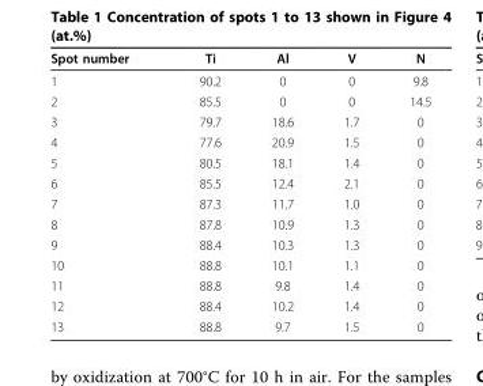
<table><thead><tr><td>Spot number</td><td>Ti</td><td>Al</td><td>V</td><td>N</td></tr></thead><tbody><tr><td>1</td><td>90.2</td><td>0</td><td>0</td><td>9.8</td></tr><tr><td>2</td><td>85.5</td><td>0</td><td>0</td><td>14.5</td></tr><tr><td>3</td><td>79.7</td><td>18.6</td><td>1.7</td><td>0</td></tr><tr><td>4</td><td>77.6</td><td>20.9</td><td>1.5</td><td>0</td></tr><tr><td>5</td><td>80.5</td><td>18.1</td><td>1.4</td><td>0</td></tr><tr><td>6</td><td>85.5</td><td>12.4</td><td>2.1</td><td>0</td></tr><tr><td>7</td><td>87.3</td><td>11.7</td><td>1.0</td><td>0</td></tr><tr><td>8</td><td>87.8</td><td>10.9</td><td>1.3</td><td>0</td></tr><tr><td>9</td><td>88.4</td><td>10.3</td><td>1.3</td><td>0</td></tr><tr><td>10</td><td>88.8</td><td>10.1</td><td>1.1</td><td>0</td></tr><tr><td>11</td><td>88.8</td><td>9.8</td><td>1.4</td><td>0</td></tr><tr><td>12</td><td>88.4</td><td>10.2</td><td>1.4</td><td>0</td></tr><tr><td>13</td><td>88.8</td><td>9.7</td><td>1.5</td><td>0</td></tr></tbody></table>